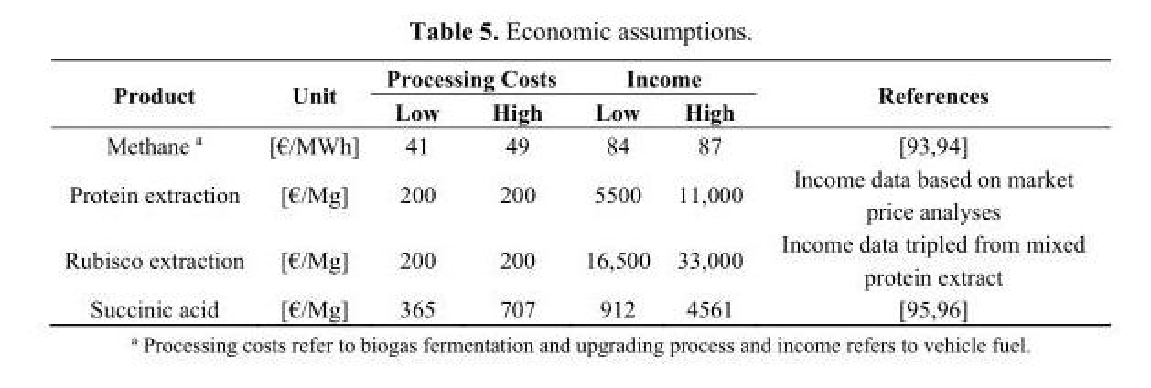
<table><thead><tr><td rowspan="2">Product</td><td rowspan="2">Unit</td><td colspan="2">Processing Costs</td><td colspan="2">Income</td><td rowspan="2">References</td></tr><tr><td>Low</td><td>High</td><td>Low</td><td>High</td></tr></thead><tbody><tr><td>Methane <sup>a</sup></td><td>[€/MWh]</td><td>41</td><td>49</td><td>84</td><td>87</td><td>[93,94]</td></tr><tr><td>Protein extraction</td><td>[€/Mg]</td><td>200</td><td>200</td><td>5500</td><td>11,000</td><td>Income data based on market price analyses</td></tr><tr><td>Rubisco extraction</td><td>[€/Mg]</td><td>200</td><td>200</td><td>16,500</td><td>33,000</td><td>Income data tripled from mixed protein extract</td></tr><tr><td>Succinic acid</td><td>[€/Mg]</td><td>365</td><td>707</td><td>912</td><td>4561</td><td>[95,96]</td></tr></tbody></table>